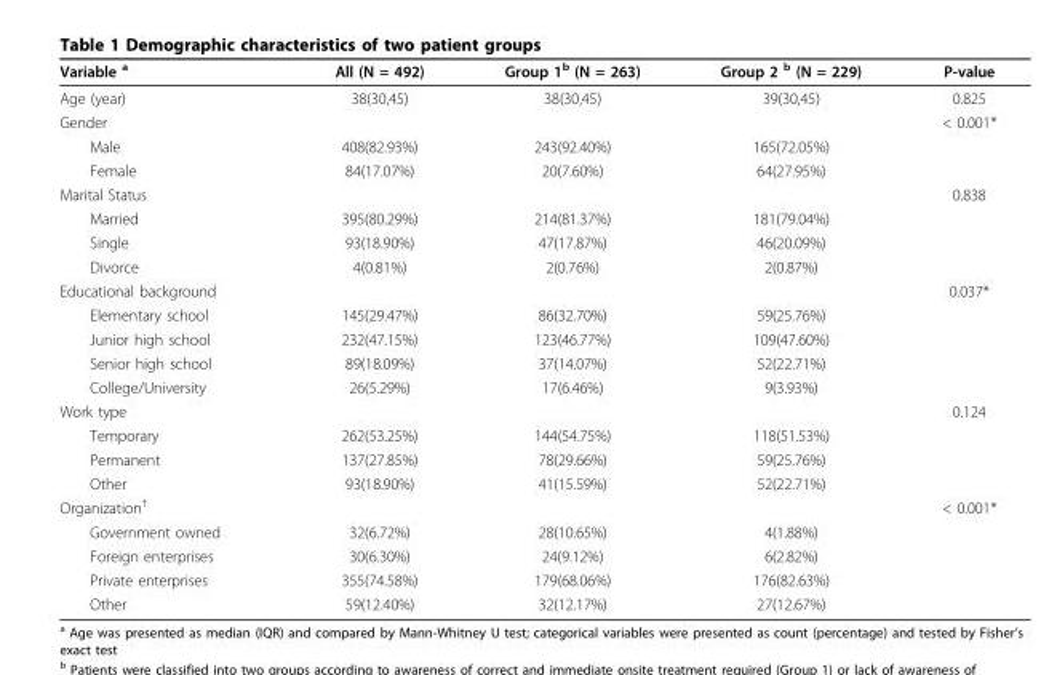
<table><thead><tr><td>Variable <sup>a</sup></td><td>All (N = 492)</td><td>Group 1<sup>b</sup> (N = 263)</td><td>Group 2 <sup>b</sup> (N = 229)</td><td>P-value</td></tr></thead><tbody><tr><td>Age (year)</td><td>38(30,45)</td><td>38(30,45)</td><td>39(30,45)</td><td>0.825</td></tr><tr><td>Gender</td><td></td><td></td><td></td><td>&lt; 0.001*</td></tr><tr><td>Male</td><td>408(82.93%)</td><td>243(92.40%)</td><td>165(72.05%)</td><td></td></tr><tr><td>Female</td><td>84(17.07%)</td><td>20(7.60%)</td><td>64(27.95%)</td><td></td></tr><tr><td>Marital Status</td><td></td><td></td><td></td><td>0.838</td></tr><tr><td>Married</td><td>395(80.29%)</td><td>214(81.37%)</td><td>181(79.04%)</td><td></td></tr><tr><td>Single</td><td>93(18.90%)</td><td>47(17.87%)</td><td>46(20.09%)</td><td></td></tr><tr><td>Divorce</td><td>4(0.81%)</td><td>2(0.76%)</td><td>2(0.87%)</td><td></td></tr><tr><td>Educational background</td><td></td><td></td><td></td><td>0.037*</td></tr><tr><td>Elementary school</td><td>145(29.47%)</td><td>86(32.70%)</td><td>59(25.76%)</td><td></td></tr><tr><td>Junior high school</td><td>232(47.15%)</td><td>123(46.77%)</td><td>109(47.60%)</td><td></td></tr><tr><td>Senior high school</td><td>89(18.09%)</td><td>37(14.07%)</td><td>52(22.71%)</td><td></td></tr><tr><td>College/University</td><td>26(5.29%)</td><td>17(6.46%)</td><td>9(3.93%)</td><td></td></tr><tr><td>Work type</td><td></td><td></td><td></td><td>0.124</td></tr><tr><td>Temporary</td><td>262(53.25%)</td><td>144(54.75%)</td><td>118(51.53%)</td><td></td></tr><tr><td>Permanent</td><td>137(27.85%)</td><td>78(29.66%)</td><td>59(25.76%)</td><td></td></tr><tr><td>Other</td><td>93(18.90%)</td><td>41(15.59%)</td><td>52(22.71%)</td><td></td></tr><tr><td>Organization<sup>†</sup></td><td></td><td></td><td></td><td>&lt; 0.001*</td></tr><tr><td>Government owned</td><td>32(6.72%)</td><td>28(10.65%)</td><td>4(1.88%)</td><td></td></tr><tr><td>Foreign enterprises</td><td>30(6.30%)</td><td>24(9.12%)</td><td>6(2.82%)</td><td></td></tr><tr><td>Private enterprises</td><td>355(74.58%)</td><td>179(68.06%)</td><td>176(82.63%)</td><td></td></tr><tr><td>Other</td><td>59(12.40%)</td><td>32(12.17%)</td><td>27(12.67%)</td><td></td></tr></tbody></table>